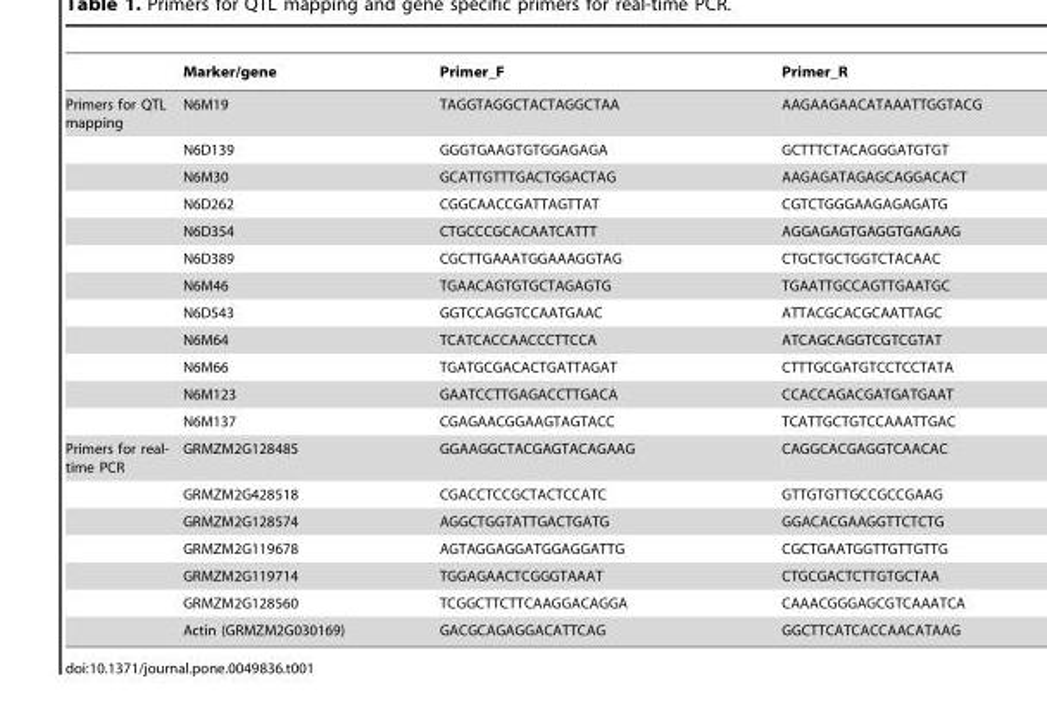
<table><thead><tr><td></td><td>Marker/gene</td><td>Primer_F</td><td>Primer_R</td></tr></thead><tbody><tr><td rowspan="12">Primers for QTL mapping</td><td>N6M19</td><td>TAGGTAGGCTACTAGGCTAA</td><td>AAGAAGAACATAAATTGGTACG</td></tr><tr><td>N6D139</td><td>GGGTGAAGTGTGGAGAGA</td><td>GCTTTCTACAGGGATGTGT</td></tr><tr><td>N6M30</td><td>GCATTGTTTGACTGGACTAG</td><td>AAGAGATAGAGCAGGACACT</td></tr><tr><td>N6D262</td><td>CGGCAACCGATTAGTTAT</td><td>CGTCTGGGAAGAGAGATG</td></tr><tr><td>N6D354</td><td>CTGCCCGCACAATCATTT</td><td>AGGAGAGTGAGGTGAGAAG</td></tr><tr><td>N6D389</td><td>CGCTTGAAATGGAAAGGTAG</td><td>CTGCTGCTGGTCTACAAC</td></tr><tr><td>N6M46</td><td>TGAACAGTGTGCTAGAGTG</td><td>TGAATTGCCAGTTGAATGC</td></tr><tr><td>N6D543</td><td>GGTCCAGGTCCAATGAAC</td><td>ATTACGCACGCAATTAGC</td></tr><tr><td>N6M64</td><td>TCATCACCAACCCTTCCA</td><td>ATCAGCAGGTCGTCGTAT</td></tr><tr><td>N6M66</td><td>TGATGCGACACTGATTAGAT</td><td>CTTTGCGATGTCCTCCTATA</td></tr><tr><td>N6M123</td><td>GAATCCTTGAGACCTTGACA</td><td>CCACCAGACGATGATGAAT</td></tr><tr><td>N6M137</td><td>CGAGAACGGAAGTAGTACC</td><td>TCATTGCTGTCCAAATTGAC</td></tr><tr><td rowspan="7">Primers for real- time PCR</td><td>GRMZM2G128485</td><td>GGAAGGCTACGAGTACAGAAG</td><td>CAGGCACGAGGTCAACAC</td></tr><tr><td>GRMZM2G428518</td><td>CGACCTCCGCTACTCCATC</td><td>GTTGTGTTGCCGCCGAAG</td></tr><tr><td>GRMZM2G128574</td><td>AGGCTGGTATTGACTGATG</td><td>GGACACGAAGGTTCTCTG</td></tr><tr><td>GRMZM2G119678</td><td>AGTAGGAGGATGGAGGATTG</td><td>CGCTGAATGGTTGTTGTTG</td></tr><tr><td>GRMZM2G119714</td><td>TGGAGAACTCGGGTAAAT</td><td>CTGCGACTCTTGTGCTAA</td></tr><tr><td>GRMZM2G128560</td><td>TCGGCTTCTTCAAGGACAGGA</td><td>CAAACGGGAGCGTCAAATCA</td></tr><tr><td>Actin (GRMZM2G030169)</td><td>GACGCAGAGGACATTCAG</td><td>GGCTTCATCACCAACATAAG</td></tr></tbody></table>